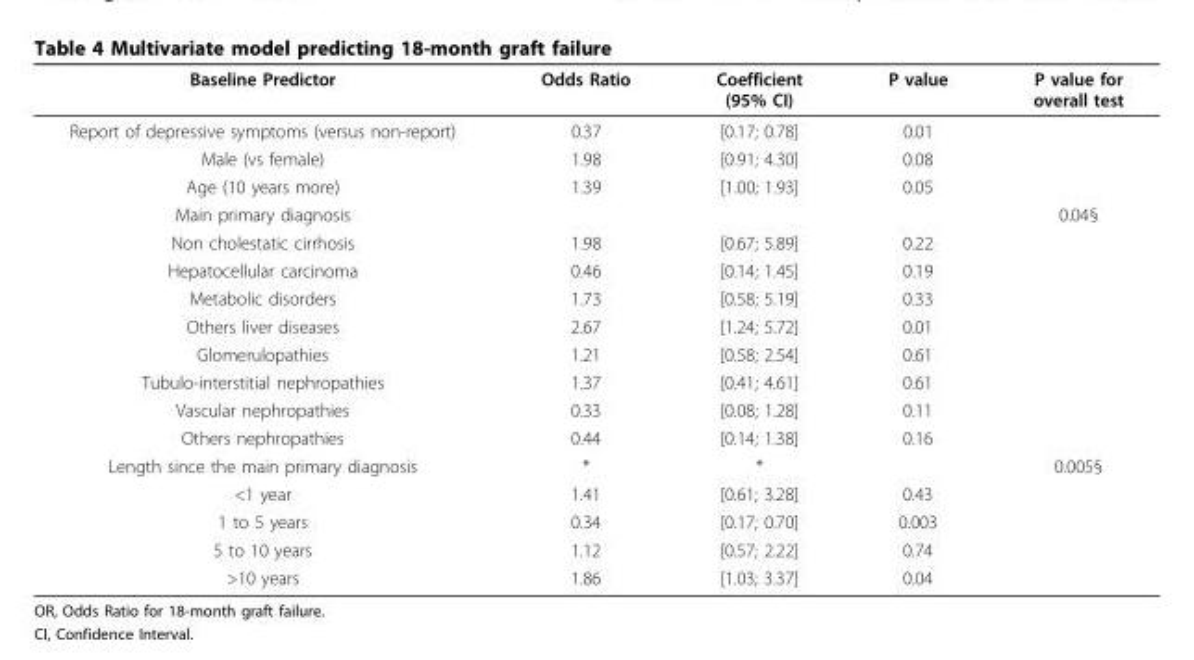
<table><thead><tr><td>Baseline Predictor</td><td>Odds Ratio</td><td>Coefficient (95% CI)</td><td>P value</td><td>P value for overall test</td></tr></thead><tbody><tr><td>Report of depressive symptoms (versus non-report)</td><td>0.37</td><td>[0.17; 0.78]</td><td>0.01</td><td></td></tr><tr><td>Male (vs female)</td><td>1.98</td><td>[0.91; 4.30]</td><td>0.08</td><td></td></tr><tr><td>Age (10 years more)</td><td>1.39</td><td>[1.00; 1.93]</td><td>0.05</td><td></td></tr><tr><td>Main primary diagnosis</td><td></td><td></td><td></td><td>0.04§</td></tr><tr><td>Non cholestatic cirrhosis</td><td>1.98</td><td>[0.67; 5.89]</td><td>0.22</td><td></td></tr><tr><td>Hepatocellular carcinoma</td><td>0.46</td><td>[0.14; 1.45]</td><td>0.19</td><td></td></tr><tr><td>Metabolic disorders</td><td>1.73</td><td>[0.58; 5.19]</td><td>0.33</td><td></td></tr><tr><td>Others liver diseases</td><td>2.67</td><td>[1.24; 5.72]</td><td>0.01</td><td></td></tr><tr><td>Glomerulopathies</td><td>1.21</td><td>[0.58; 2.54]</td><td>0.61</td><td></td></tr><tr><td>Tubulo-interstitial nephropathies</td><td>1.37</td><td>[0.41; 4.61]</td><td>0.61</td><td></td></tr><tr><td>Vascular nephropathies</td><td>0.33</td><td>[0.08; 1.28]</td><td>0.11</td><td></td></tr><tr><td>Others nephropathies</td><td>0.44</td><td>[0.14; 1.38]</td><td>0.16</td><td></td></tr><tr><td>Length since the main primary diagnosis</td><td>*</td><td>*</td><td></td><td>0.005§</td></tr><tr><td>&lt;1 year</td><td>1.41</td><td>[0.61; 3.28]</td><td>0.43</td><td></td></tr><tr><td>1 to 5 years</td><td>0.34</td><td>[0.17; 0.70]</td><td>0.003</td><td></td></tr><tr><td>5 to 10 years</td><td>1.12</td><td>[0.57; 2.22]</td><td>0.74</td><td></td></tr><tr><td>&gt;10 years</td><td>1.86</td><td>[1.03; 3.37]</td><td>0.04</td><td></td></tr></tbody></table>